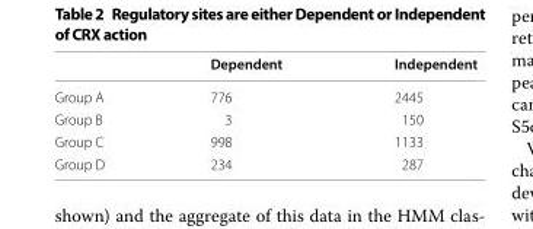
<table><thead><tr><td></td><td>Dependent</td><td>Independent</td></tr></thead><tbody><tr><td>Group A</td><td>776</td><td>2445</td></tr><tr><td>Group B</td><td>3</td><td>150</td></tr><tr><td>Group C</td><td>998</td><td>1133</td></tr><tr><td>Group D</td><td>234</td><td>287</td></tr></tbody></table>